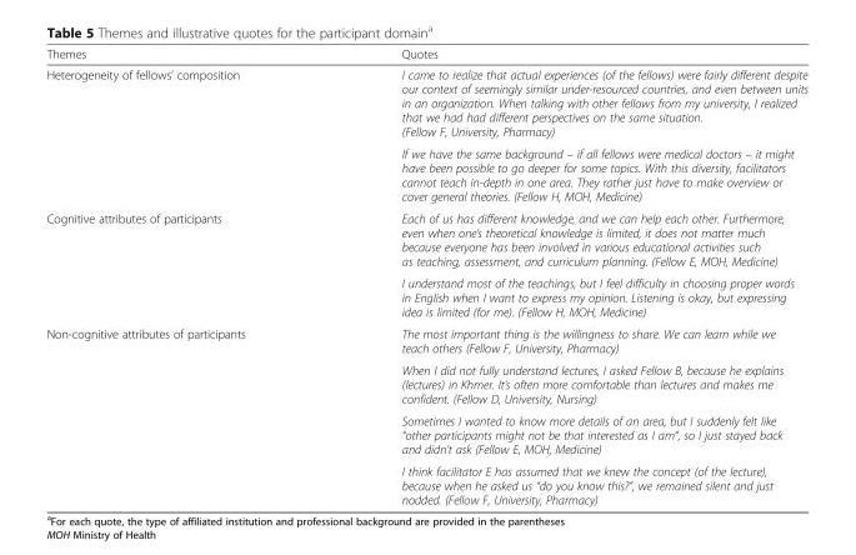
<table><thead><tr><td>Themes</td><td>Quotes</td></tr></thead><tbody><tr><td rowspan="2">Heterogeneity of fellows’ composition</td><td>I came to realize that actual experiences (of the fellows) were fairly different despite our context of seemingly similar under-resourced countries, and even between units in an organization. When talking with other fellows from my university, I realized that we had had different perspectives on the same situation. (Fellow F, University, Pharmacy)</td></tr><tr><td>If we have the same background – if all fellows were medical doctors – it might have been possible to go deeper for some topics. With this diversity, facilitators cannot teach in-depth in one area. They rather just have to make overview or cover general theories. (Fellow H, MOH, Medicine)</td></tr><tr><td rowspan="2">Cognitive attributes of participants</td><td>Each of us has different knowledge, and we can help each other. Furthermore, even when one’s theoretical knowledge is limited, it does not matter much because everyone has been involved in various educational activities such as teaching, assessment, and curriculum planning. (Fellow E, MOH, Medicine)</td></tr><tr><td>I understand most of the teachings, but I feel difficulty in choosing proper words in English when I want to express my opinion. Listening is okay, but expressing idea is limited (for me). (Fellow H, MOH, Medicine)</td></tr><tr><td rowspan="4">Non-cognitive attributes of participants</td><td>The most important thing is the willingness to share. We can learn while we teach others (Fellow F, University, Pharmacy)</td></tr><tr><td>When I did not fully understand lectures, I asked Fellow B, because he explains (lectures) in Khmer. It’s often more comfortable than lectures and makes me confident. (Fellow D, University, Nursing)</td></tr><tr><td>Sometimes I wanted to know more details of an area, but I suddenly felt like “other participants might not be that interested as I am”, so I just stayed back and didn’t ask (Fellow E, MOH, Medicine)</td></tr><tr><td>I think facilitator E has assumed that we knew the concept (of the lecture), because when he asked us “do you know this?”, we remained silent and just nodded. (Fellow F, University, Pharmacy)</td></tr></tbody></table>